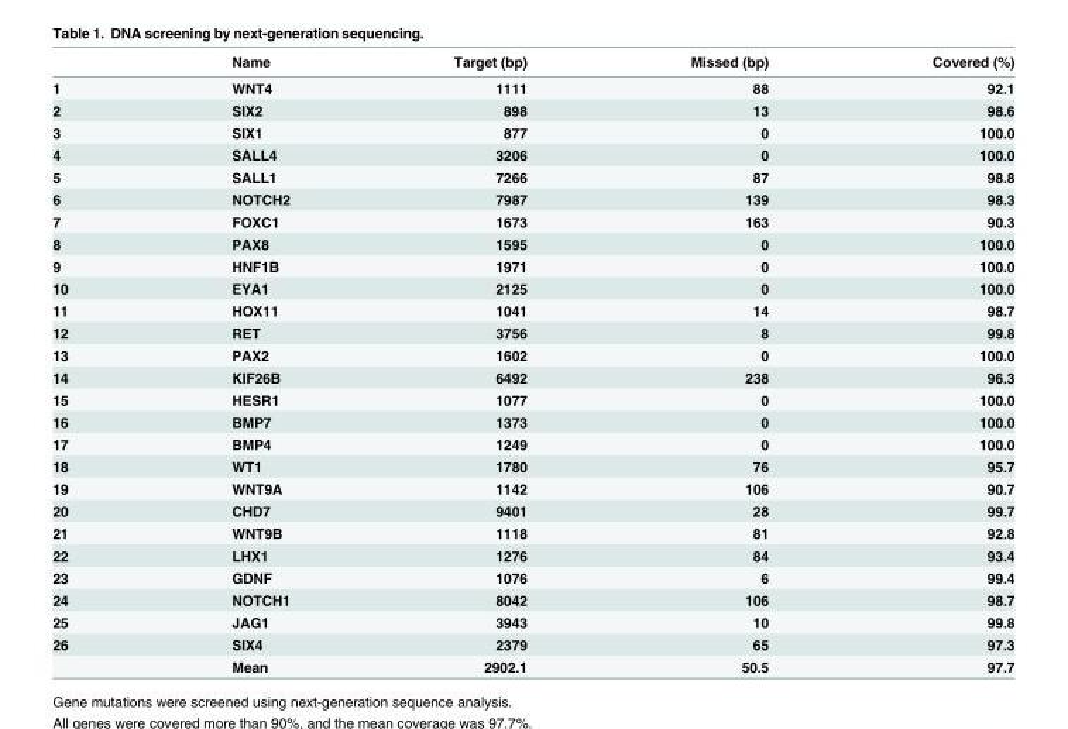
<table><thead><tr><td></td><td>Name</td><td>Target (bp)</td><td>Missed (bp)</td><td>Covered (%)</td></tr></thead><tbody><tr><td>1</td><td>WNT4</td><td>1111</td><td>88</td><td>92.1</td></tr><tr><td>2</td><td>SIX2</td><td>898</td><td>13</td><td>98.6</td></tr><tr><td>3</td><td>SIX1</td><td>877</td><td>0</td><td>100.0</td></tr><tr><td>4</td><td>SALL4</td><td>3206</td><td>0</td><td>100.0</td></tr><tr><td>5</td><td>SALL1</td><td>7266</td><td>87</td><td>98.8</td></tr><tr><td>6</td><td>NOTCH2</td><td>7987</td><td>139</td><td>98.3</td></tr><tr><td>7</td><td>FOXC1</td><td>1673</td><td>163</td><td>90.3</td></tr><tr><td>8</td><td>PAX8</td><td>1595</td><td>0</td><td>100.0</td></tr><tr><td>9</td><td>HNF1B</td><td>1971</td><td>0</td><td>100.0</td></tr><tr><td>10</td><td>EYA1</td><td>2125</td><td>0</td><td>100.0</td></tr><tr><td>11</td><td>HOX11</td><td>1041</td><td>14</td><td>98.7</td></tr><tr><td>12</td><td>RET</td><td>3756</td><td>8</td><td>99.8</td></tr><tr><td>13</td><td>PAX2</td><td>1602</td><td>0</td><td>100.0</td></tr><tr><td>14</td><td>KIF26B</td><td>6492</td><td>238</td><td>96.3</td></tr><tr><td>15</td><td>HESR1</td><td>1077</td><td>0</td><td>100.0</td></tr><tr><td>16</td><td>BMP7</td><td>1373</td><td>0</td><td>100.0</td></tr><tr><td>17</td><td>BMP4</td><td>1249</td><td>0</td><td>100.0</td></tr><tr><td>18</td><td>WT1</td><td>1780</td><td>76</td><td>95.7</td></tr><tr><td>19</td><td>WNT9A</td><td>1142</td><td>106</td><td>90.7</td></tr><tr><td>20</td><td>CHD7</td><td>9401</td><td>28</td><td>99.7</td></tr><tr><td>21</td><td>WNT9B</td><td>1118</td><td>81</td><td>92.8</td></tr><tr><td>22</td><td>LHX1</td><td>1276</td><td>84</td><td>93.4</td></tr><tr><td>23</td><td>GDNF</td><td>1076</td><td>6</td><td>99.4</td></tr><tr><td>24</td><td>NOTCH1</td><td>8042</td><td>106</td><td>98.7</td></tr><tr><td>25</td><td>JAG1</td><td>3943</td><td>10</td><td>99.8</td></tr><tr><td rowspan="2">26</td><td>SIX4</td><td>2379</td><td>65</td><td>97.3</td></tr><tr><td>Mean</td><td>2902.1</td><td>50.5</td><td>97.7</td></tr></tbody></table>